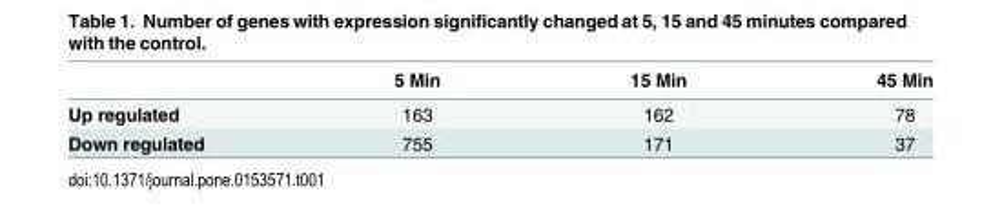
<table><thead><tr><td></td><td>5 Min</td><td>15 Min</td><td>45 Min</td></tr></thead><tbody><tr><td>Up regulated</td><td>163</td><td>162</td><td>78</td></tr><tr><td>Down regulated</td><td>755</td><td>171</td><td>37</td></tr></tbody></table>